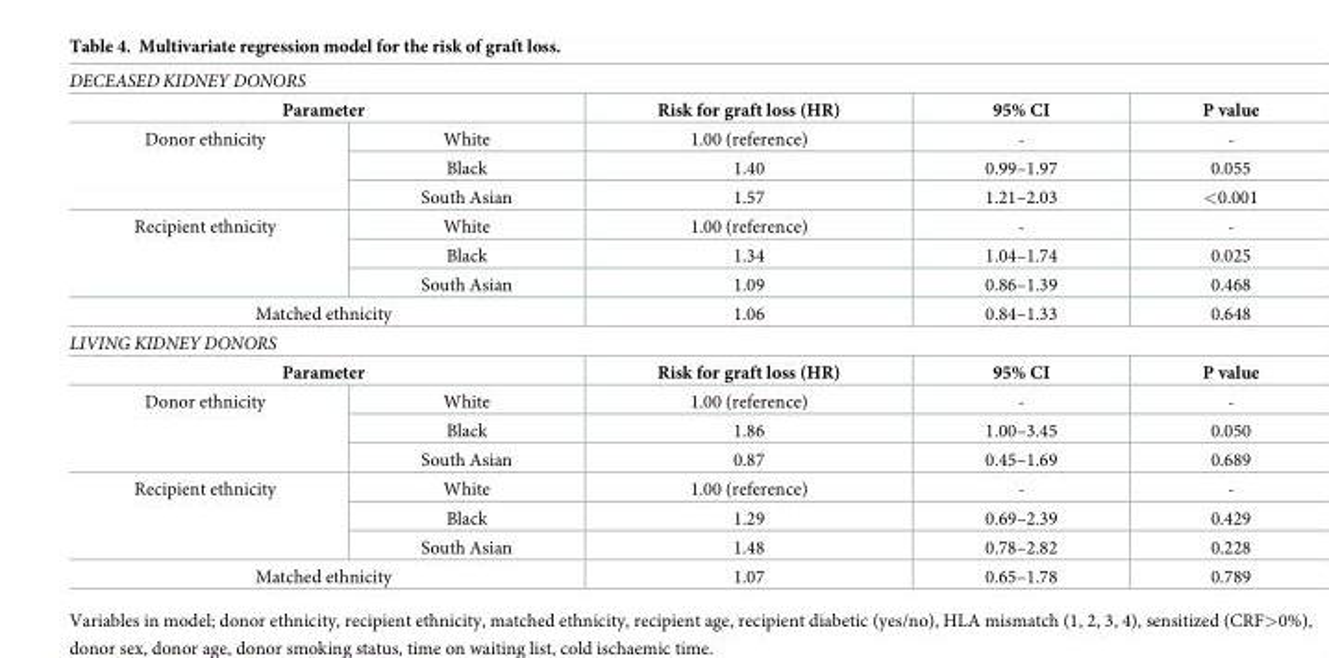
<table><tbody><tr><td colspan="5">DECEASED KIDNEY DONORS</td></tr><tr><td colspan="2">Parameter</td><td>Risk for graft loss (HR)</td><td>95% CI</td><td>P value</td></tr><tr><td rowspan="3">Donor ethnicity</td><td>White</td><td>1.00 (reference)</td><td>-</td><td>-</td></tr><tr><td>Black</td><td>1.40</td><td>0.99–1.97</td><td>0.055</td></tr><tr><td>South Asian</td><td>1.57</td><td>1.21–2.03</td><td>&lt;0.001</td></tr><tr><td rowspan="3">Recipient ethnicity</td><td>White</td><td>1.00 (reference)</td><td>-</td><td>-</td></tr><tr><td>Black</td><td>1.34</td><td>1.04–1.74</td><td>0.025</td></tr><tr><td>South Asian</td><td>1.09</td><td>0.86–1.39</td><td>0.468</td></tr><tr><td colspan="2">Matched ethnicity</td><td>1.06</td><td>0.84–1.33</td><td>0.648</td></tr><tr><td colspan="5">LIVING KIDNEY DONORS</td></tr><tr><td colspan="2">Parameter</td><td>Risk for graft loss (HR)</td><td>95% CI</td><td>P value</td></tr><tr><td rowspan="3">Donor ethnicity</td><td>White</td><td>1.00 (reference)</td><td>-</td><td>-</td></tr><tr><td>Black</td><td>1.86</td><td>1.00–3.45</td><td>0.050</td></tr><tr><td>South Asian</td><td>0.87</td><td>0.45–1.69</td><td>0.689</td></tr><tr><td rowspan="3">Recipient ethnicity</td><td>White</td><td>1.00 (reference)</td><td>-</td><td>-</td></tr><tr><td>Black</td><td>1.29</td><td>0.69–2.39</td><td>0.429</td></tr><tr><td>South Asian</td><td>1.48</td><td>0.78–2.82</td><td>0.228</td></tr><tr><td colspan="2">Matched ethnicity</td><td>1.07</td><td>0.65–1.78</td><td>0.789</td></tr></tbody></table>